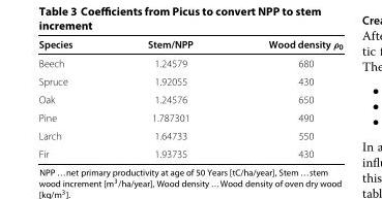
<table><thead><tr><td>Species</td><td>Stem/NPP</td><td>Wood density ρ<sub>0</sub></td></tr></thead><tbody><tr><td>Beech</td><td>1.24579</td><td>680</td></tr><tr><td>Spruce</td><td>1.92055</td><td>430</td></tr><tr><td>Oak</td><td>1.24576</td><td>650</td></tr><tr><td>Pine</td><td>1.787301</td><td>490</td></tr><tr><td>Larch</td><td>1.64733</td><td>550</td></tr><tr><td>Fir</td><td>1.93735</td><td>430</td></tr></tbody></table>